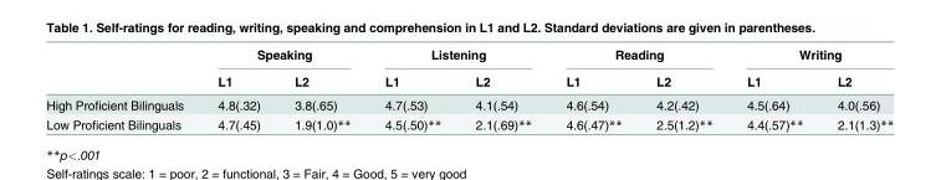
<table><thead><tr><td rowspan="2"></td><td colspan="2">Speaking</td><td colspan="2">Listening</td><td colspan="2">Reading</td><td colspan="2">Writing</td></tr><tr><td>L1</td><td>L2</td><td>L1</td><td>L2</td><td>L1</td><td>L2</td><td>L1</td><td>L2</td></tr></thead><tbody><tr><td>High Proficient Bilinguals</td><td>4.8(.32)</td><td>3.8(.65)</td><td>4.7(.53)</td><td>4.1(.54)</td><td>4.6(.54)</td><td>4.2(.42)</td><td>4.5(.64)</td><td>4.0(.56)</td></tr><tr><td>Low Proficient Bilinguals</td><td>4.7(.45)</td><td>1.9(1.0)**</td><td>4.5(.50)**</td><td>2.1(.69)**</td><td>4.6(.47)**</td><td>2.5(1.2)**</td><td>4.4(.57)**</td><td>2.1(1.3)**</td></tr></tbody></table>